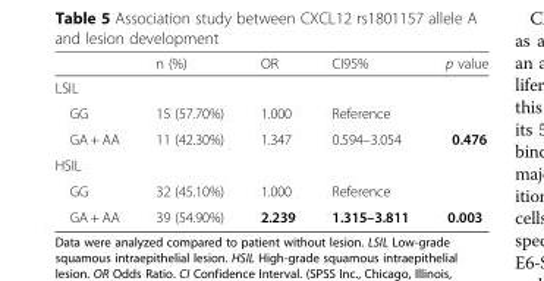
<table><thead><tr><td></td><td>n (%)</td><td>OR</td><td>CI95%</td><td>p value</td></tr></thead><tbody><tr><td colspan="5">LSIL</td></tr><tr><td>GG</td><td>15 (57.70%)</td><td>1.000</td><td>Reference</td><td></td></tr><tr><td>GA + AA</td><td>11 (42.30%)</td><td>1.347</td><td>0.594–3.054</td><td>0.476</td></tr><tr><td colspan="5">HSIL</td></tr><tr><td>GG</td><td>32 (45.10%)</td><td>1.000</td><td>Reference</td><td></td></tr><tr><td>GA + AA</td><td>39 (54.90%)</td><td>2.239</td><td>1.315–3.811</td><td>0.003</td></tr></tbody></table>